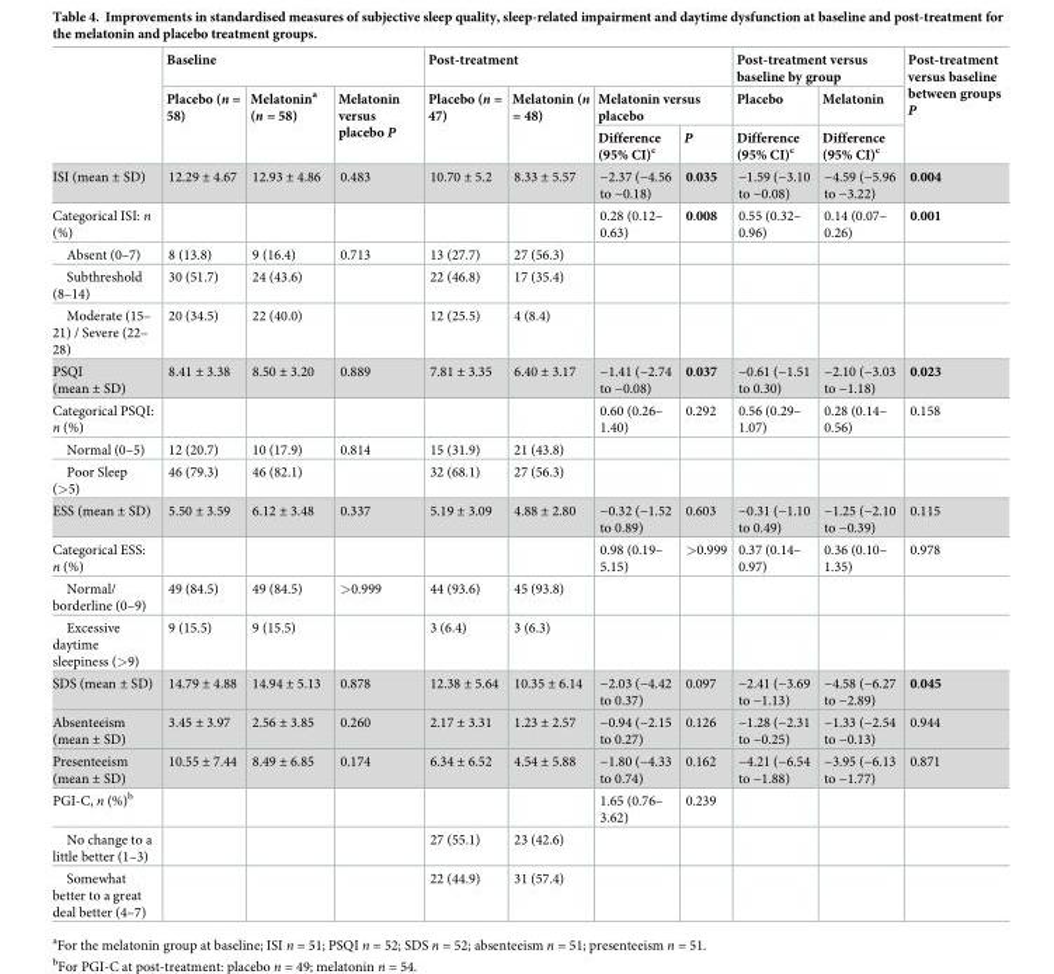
<table><thead><tr><td rowspan="3"></td><td colspan="3">Baseline</td><td colspan="4">Post-treatment</td><td colspan="2">Post-treatment versus baseline by group</td><td rowspan="3">Post-treatment versus baseline between groups P</td></tr><tr><td rowspan="2">Placebo (n = 58)</td><td rowspan="2">Melatonin<sup>a</sup> (n = 58)</td><td rowspan="2">Melatonin versus placebo P</td><td rowspan="2">Placebo (n = 47)</td><td rowspan="2">Melatonin (n = 48)</td><td colspan="2">Melatonin versus placebo</td><td rowspan="2">Placebo Difference (95% CI)<sup>c</sup></td><td rowspan="2">Melatonin Difference (95% CI)<sup>c</sup></td></tr><tr><td>Difference (95% CI)<sup>c</sup></td><td>P</td></tr></thead><tbody><tr><td>ISI (mean ± SD)</td><td>12.29 ± 4.67</td><td>12.93 ± 4.86</td><td>0.483</td><td>10.70 ± 5.2</td><td>8.33 ± 5.57</td><td>−2.37 (−4.56 to −0.18)</td><td>0.035</td><td>−1.59 (−3.10 to −0.08)</td><td>−4.59 (−5.96 to −3.22)</td><td>0.004</td></tr><tr><td>Categorical ISI: n (%)</td><td></td><td></td><td></td><td></td><td></td><td>0.28 (0.12– 0.63)</td><td>0.008</td><td>0.55 (0.32– 0.96)</td><td>0.14 (0.07– 0.26)</td><td>0.001</td></tr><tr><td>Absent (0–7)</td><td>8 (13.8)</td><td>9 (16.4)</td><td>0.713</td><td>13 (27.7)</td><td>27 (56.3)</td><td></td><td></td><td></td><td></td><td></td></tr><tr><td>Subthreshold (8–14)</td><td>30 (51.7)</td><td>24 (43.6)</td><td></td><td>22 (46.8)</td><td>17 (35.4)</td><td></td><td></td><td></td><td></td><td></td></tr><tr><td>Moderate (15– 21) / Severe (22– 28)</td><td>20 (34.5)</td><td>22 (40.0)</td><td></td><td>12 (25.5)</td><td>4 (8.4)</td><td></td><td></td><td></td><td></td><td></td></tr><tr><td>PSQI (mean ± SD)</td><td>8.41 ± 3.38</td><td>8.50 ± 3.20</td><td>0.889</td><td>7.81 ± 3.35</td><td>6.40 ± 3.17</td><td>−1.41 (−2.74 to −0.08)</td><td>0.037</td><td>−0.61 (−1.51 to 0.30)</td><td>−2.10 (−3.03 to −1.18)</td><td>0.023</td></tr><tr><td>Categorical PSQI: n (%)</td><td></td><td></td><td></td><td></td><td></td><td>0.60 (0.26– 1.40)</td><td>0.292</td><td>0.56 (0.29– 1.07)</td><td>0.28 (0.14– 0.56)</td><td>0.158</td></tr><tr><td>Normal (0–5)</td><td>12 (20.7)</td><td>10 (17.9)</td><td>0.814</td><td>15 (31.9)</td><td>21 (43.8)</td><td></td><td></td><td></td><td></td><td></td></tr><tr><td>Poor Sleep (&gt;5)</td><td>46 (79.3)</td><td>46 (82.1)</td><td></td><td>32 (68.1)</td><td>27 (56.3)</td><td></td><td></td><td></td><td></td><td></td></tr><tr><td>ESS (mean ± SD)</td><td>5.50 ± 3.59</td><td>6.12 ± 3.48</td><td>0.337</td><td>5.19 ± 3.09</td><td>4.88 ± 2.80</td><td>−0.32 (−1.52 to 0.89)</td><td>0.603</td><td>−0.31 (−1.10 to 0.49)</td><td>−1.25 (−2.10 to −0.39)</td><td>0.115</td></tr><tr><td>Categorical ESS: n (%)</td><td></td><td></td><td></td><td></td><td></td><td>0.98 (0.19– 5.15)</td><td>&gt;0.999</td><td>0.37 (0.14– 0.97)</td><td>0.36 (0.10– 1.35)</td><td>0.978</td></tr><tr><td>Normal/ borderline (0–9)</td><td>49 (84.5)</td><td>49 (84.5)</td><td>&gt;0.999</td><td>44 (93.6)</td><td>45 (93.8)</td><td></td><td></td><td></td><td></td><td></td></tr><tr><td>Excessive daytime sleepiness (&gt;9)</td><td>9 (15.5)</td><td>9 (15.5)</td><td></td><td>3 (6.4)</td><td>3 (6.3)</td><td></td><td></td><td></td><td></td><td></td></tr><tr><td>SDS (mean ± SD)</td><td>14.79 ± 4.88</td><td>14.94 ± 5.13</td><td>0.878</td><td>12.38 ± 5.64</td><td>10.35 ± 6.14</td><td>−2.03 (−4.42 to 0.37)</td><td>0.097</td><td>−2.41 (−3.69 to −1.13)</td><td>−4.58 (−6.27 to −2.89)</td><td>0.045</td></tr><tr><td>Absenteeism (mean ± SD)</td><td>3.45 ± 3.97</td><td>2.56 ± 3.85</td><td>0.260</td><td>2.17 ± 3.31</td><td>1.23 ± 2.57</td><td>−0.94 (−2.15 to 0.27)</td><td>0.126</td><td>−1.28 (−2.31 to −0.25)</td><td>−1.33 (−2.54 to −0.13)</td><td>0.944</td></tr><tr><td>Presenteeism (mean ± SD)</td><td>10.55 ± 7.44</td><td>8.49 ± 6.85</td><td>0.174</td><td>6.34 ± 6.52</td><td>4.54 ± 5.88</td><td>−1.80 (−4.33 to 0.74)</td><td>0.162</td><td>−4.21 (−6.54 to −1.88)</td><td>−3.95 (−6.13 to −1.77)</td><td>0.871</td></tr><tr><td>PGI-C, n (%)<sup>b</sup></td><td></td><td></td><td></td><td></td><td></td><td>1.65 (0.76– 3.62)</td><td>0.239</td><td></td><td></td><td></td></tr><tr><td>No change to a little better (1–3)</td><td></td><td></td><td></td><td>27 (55.1)</td><td>23 (42.6)</td><td></td><td></td><td></td><td></td><td></td></tr><tr><td>Somewhat better to a great deal better (4–7)</td><td></td><td></td><td></td><td>22 (44.9)</td><td>31 (57.4)</td><td></td><td></td><td></td><td></td><td></td></tr></tbody></table>